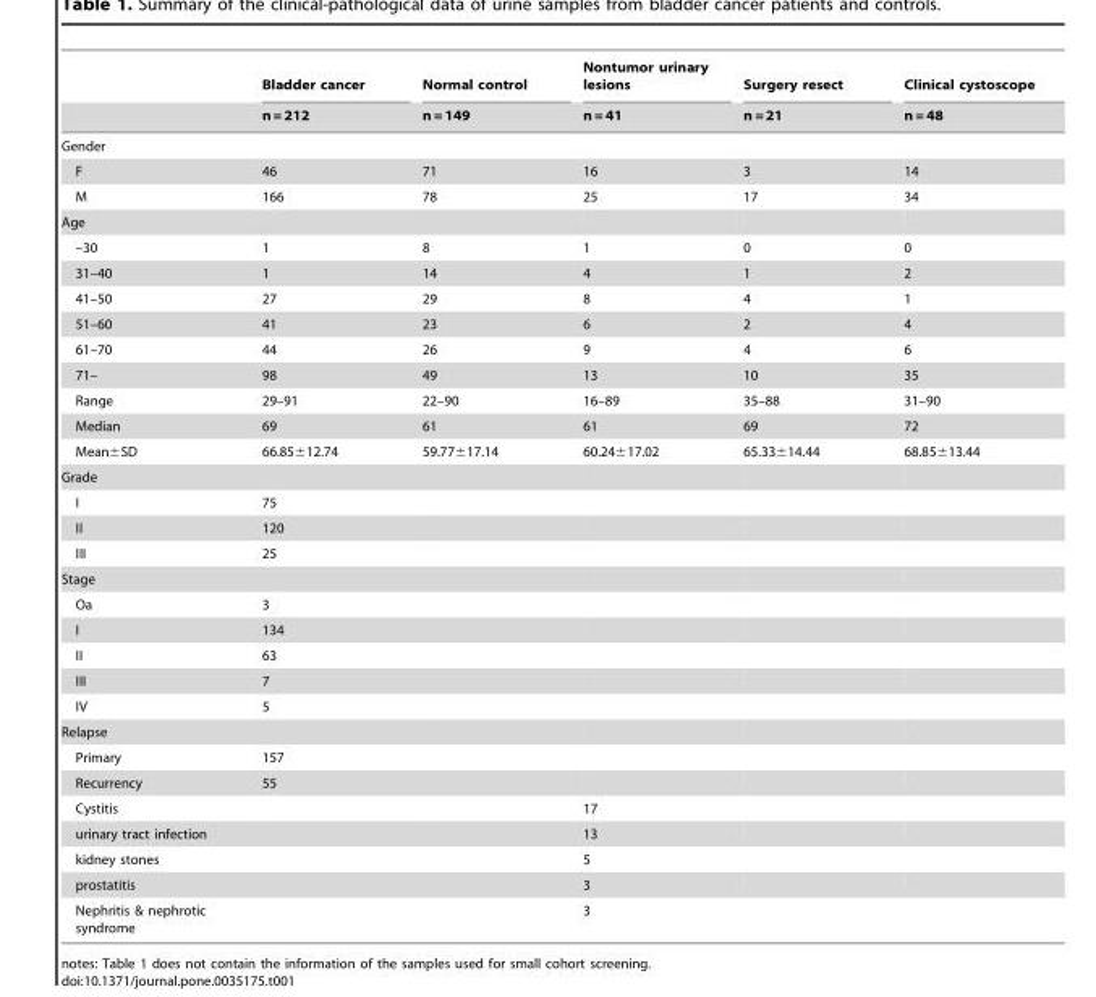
<table><thead><tr><td rowspan="2"></td><td rowspan="2">Bladder cancer n = 212</td><td rowspan="2">Normal control n = 149</td><td rowspan="2">Nontumor urinary lesions n = 41</td><td rowspan="2">Surgery resect n = 21</td><td rowspan="2">Clinical cystoscope n = 48</td></tr><tr></tr></thead><tbody><tr><td colspan="6">Gender</td></tr><tr><td>F</td><td>46</td><td>71</td><td>16</td><td>3</td><td>14</td></tr><tr><td>M</td><td>166</td><td>78</td><td>25</td><td>17</td><td>34</td></tr><tr><td colspan="6">Age</td></tr><tr><td>–30</td><td>1</td><td>8</td><td>1</td><td>0</td><td>0</td></tr><tr><td>31–40</td><td>1</td><td>14</td><td>4</td><td>1</td><td>2</td></tr><tr><td>41–50</td><td>27</td><td>29</td><td>8</td><td>4</td><td>1</td></tr><tr><td>51–60</td><td>41</td><td>23</td><td>6</td><td>2</td><td>4</td></tr><tr><td>61–70</td><td>44</td><td>26</td><td>9</td><td>4</td><td>6</td></tr><tr><td>71–</td><td>98</td><td>49</td><td>13</td><td>10</td><td>35</td></tr><tr><td>Range</td><td>29–91</td><td>22–90</td><td>16–89</td><td>35–88</td><td>31–90</td></tr><tr><td>Median</td><td>69</td><td>61</td><td>61</td><td>69</td><td>72</td></tr><tr><td>Mean±SD</td><td>66.85±12.74</td><td>59.77±17.14</td><td>60.24±17.02</td><td>65.33±14.44</td><td>68.85±13.44</td></tr><tr><td colspan="6">Grade</td></tr><tr><td>I</td><td>75</td><td></td><td></td><td></td><td></td></tr><tr><td>II</td><td>120</td><td></td><td></td><td></td><td></td></tr><tr><td>III</td><td>25</td><td></td><td></td><td></td><td></td></tr><tr><td colspan="6">Stage</td></tr><tr><td>Oa</td><td>3</td><td></td><td></td><td></td><td></td></tr><tr><td>I</td><td>134</td><td></td><td></td><td></td><td></td></tr><tr><td>II</td><td>63</td><td></td><td></td><td></td><td></td></tr><tr><td>III</td><td>7</td><td></td><td></td><td></td><td></td></tr><tr><td>IV</td><td>5</td><td></td><td></td><td></td><td></td></tr><tr><td colspan="6">Relapse</td></tr><tr><td>Primary</td><td>157</td><td></td><td></td><td></td><td></td></tr><tr><td>Recurrency</td><td>55</td><td></td><td></td><td></td><td></td></tr><tr><td>Cystitis</td><td></td><td></td><td>17</td><td></td><td></td></tr><tr><td>urinary tract infection</td><td></td><td></td><td>13</td><td></td><td></td></tr><tr><td>kidney stones</td><td></td><td></td><td>5</td><td></td><td></td></tr><tr><td>prostatitis</td><td></td><td></td><td>3</td><td></td><td></td></tr><tr><td>Nephritis &amp; nephrotic syndrome</td><td></td><td></td><td>3</td><td></td><td></td></tr></tbody></table>